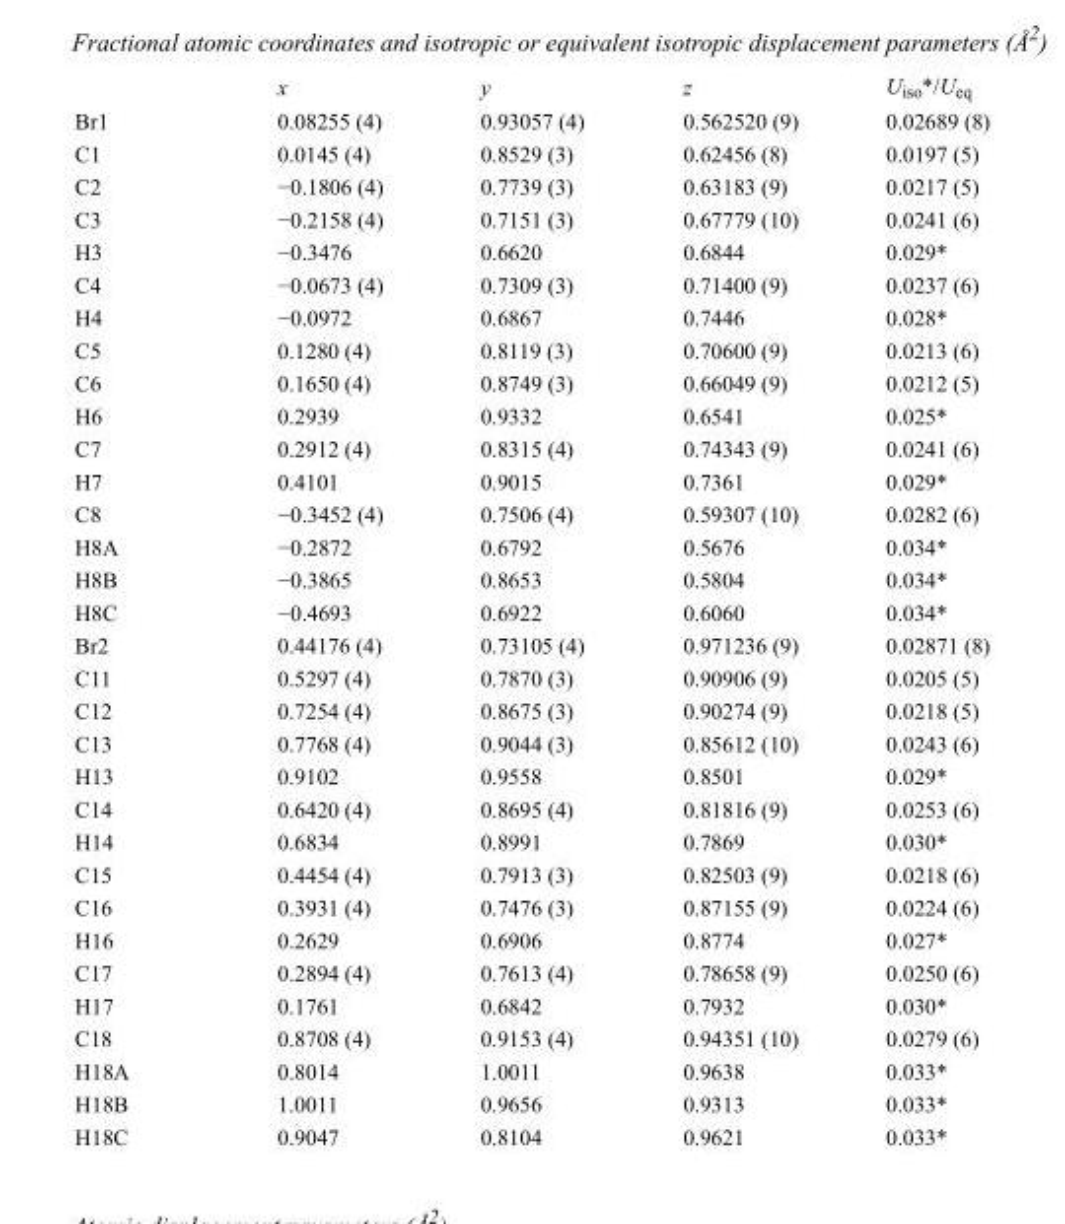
<table><thead><tr><td></td><td>x</td><td>y</td><td>z</td><td>U<sub>iso</sub>*/U<sub>eq</sub></td></tr></thead><tbody><tr><td>Br1</td><td>0.08255 (4)</td><td>0.93057 (4)</td><td>0.562520 (9)</td><td>0.02689 (8)</td></tr><tr><td>C1</td><td>0.0145 (4)</td><td>0.8529 (3)</td><td>0.62456 (8)</td><td>0.0197 (5)</td></tr><tr><td>C2</td><td>−0.1806 (4)</td><td>0.7739 (3)</td><td>0.63183 (9)</td><td>0.0217 (5)</td></tr><tr><td>C3</td><td>−0.2158 (4)</td><td>0.7151 (3)</td><td>0.67779 (10)</td><td>0.0241 (6)</td></tr><tr><td>H3</td><td>−0.3476</td><td>0.6620</td><td>0.6844</td><td>0.029*</td></tr><tr><td>C4</td><td>−0.0673 (4)</td><td>0.7309 (3)</td><td>0.71400 (9)</td><td>0.0237 (6)</td></tr><tr><td>H4</td><td>−0.0972</td><td>0.6867</td><td>0.7446</td><td>0.028*</td></tr><tr><td>C5</td><td>0.1280 (4)</td><td>0.8119 (3)</td><td>0.70600 (9)</td><td>0.0213 (6)</td></tr><tr><td>C6</td><td>0.1650 (4)</td><td>0.8749 (3)</td><td>0.66049 (9)</td><td>0.0212 (5)</td></tr><tr><td>H6</td><td>0.2939</td><td>0.9332</td><td>0.6541</td><td>0.025*</td></tr><tr><td>C7</td><td>0.2912 (4)</td><td>0.8315 (4)</td><td>0.74343 (9)</td><td>0.0241 (6)</td></tr><tr><td>H7</td><td>0.4101</td><td>0.9015</td><td>0.7361</td><td>0.029*</td></tr><tr><td>C8</td><td>−0.3452 (4)</td><td>0.7506 (4)</td><td>0.59307 (10)</td><td>0.0282 (6)</td></tr><tr><td>H8A</td><td>−0.2872</td><td>0.6792</td><td>0.5676</td><td>0.034*</td></tr><tr><td>H8B</td><td>−0.3865</td><td>0.8653</td><td>0.5804</td><td>0.034*</td></tr><tr><td>H8C</td><td>−0.4693</td><td>0.6922</td><td>0.6060</td><td>0.034*</td></tr><tr><td>Br2</td><td>0.44176 (4)</td><td>0.73105 (4)</td><td>0.971236 (9)</td><td>0.02871 (8)</td></tr><tr><td>C11</td><td>0.5297 (4)</td><td>0.7870 (3)</td><td>0.90906 (9)</td><td>0.0205 (5)</td></tr><tr><td>C12</td><td>0.7254 (4)</td><td>0.8675 (3)</td><td>0.90274 (9)</td><td>0.0218 (5)</td></tr><tr><td>C13</td><td>0.7768 (4)</td><td>0.9044 (3)</td><td>0.85612 (10)</td><td>0.0243 (6)</td></tr><tr><td>H13</td><td>0.9102</td><td>0.9558</td><td>0.8501</td><td>0.029*</td></tr><tr><td>C14</td><td>0.6420 (4)</td><td>0.8695 (4)</td><td>0.81816 (9)</td><td>0.0253 (6)</td></tr><tr><td>H14</td><td>0.6834</td><td>0.8991</td><td>0.7869</td><td>0.030*</td></tr><tr><td>C15</td><td>0.4454 (4)</td><td>0.7913 (3)</td><td>0.82503 (9)</td><td>0.0218 (6)</td></tr><tr><td>C16</td><td>0.3931 (4)</td><td>0.7476 (3)</td><td>0.87155 (9)</td><td>0.0224 (6)</td></tr><tr><td>H16</td><td>0.2629</td><td>0.6906</td><td>0.8774</td><td>0.027*</td></tr><tr><td>C17</td><td>0.2894 (4)</td><td>0.7613 (4)</td><td>0.78658 (9)</td><td>0.0250 (6)</td></tr><tr><td>H17</td><td>0.1761</td><td>0.6842</td><td>0.7932</td><td>0.030*</td></tr><tr><td>C18</td><td>0.8708 (4)</td><td>0.9153 (4)</td><td>0.94351 (10)</td><td>0.0279 (6)</td></tr><tr><td>H18A</td><td>0.8014</td><td>1.0011</td><td>0.9638</td><td>0.033*</td></tr><tr><td>H18B</td><td>1.0011</td><td>0.9656</td><td>0.9313</td><td>0.033*</td></tr><tr><td>H18C</td><td>0.9047</td><td>0.8104</td><td>0.9621</td><td>0.033*</td></tr></tbody></table>